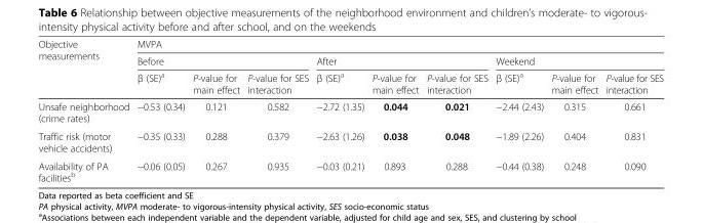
<table><thead><tr><td rowspan="3">Objective measurements</td><td colspan="9">MVPA</td></tr><tr><td colspan="3">Before</td><td colspan="3">After</td><td colspan="3">Weekend</td></tr><tr><td>β (SE)<sup>a</sup></td><td>P-value for main effect</td><td>P-value for SES interaction</td><td>β (SE)<sup>a</sup></td><td>P-value for main effect</td><td>P-value for SES interaction</td><td>β (SE)<sup>a</sup></td><td>P-value for main effect</td><td>P-value for SES interaction</td></tr></thead><tbody><tr><td>Unsafe neighborhood (crime rates)</td><td>−0.53 (0.34)</td><td>0.121</td><td>0.582</td><td>−2.72 (1.35)</td><td>0.044</td><td>0.021</td><td>−2.44 (2.43)</td><td>0.315</td><td>0.661</td></tr><tr><td>Traffic risk (motor vehicle accidents)</td><td>−0.35 (0.33)</td><td>0.288</td><td>0.379</td><td>−2.63 (1.26)</td><td>0.038</td><td>0.048</td><td>−1.89 (2.26)</td><td>0.404</td><td>0.831</td></tr><tr><td>Availability of PA facilities<sup>b</sup></td><td>−0.06 (0.05)</td><td>0.267</td><td>0.935</td><td>−0.03 (0.21)</td><td>0.893</td><td>0.288</td><td>−0.44 (0.38)</td><td>0.248</td><td>0.090</td></tr></tbody></table>